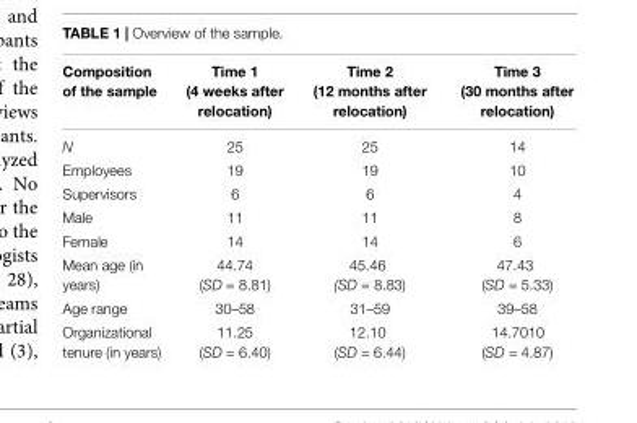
<table><thead><tr><td>Composition of the sample</td><td>Time 1 (4 weeks after relocation)</td><td>Time 2 (12 months after relocation)</td><td>Time 3 (30 months after relocation)</td></tr></thead><tbody><tr><td>N</td><td>25</td><td>25</td><td>14</td></tr><tr><td>Employees</td><td>19</td><td>19</td><td>10</td></tr><tr><td>Supervisors</td><td>6</td><td>6</td><td>4</td></tr><tr><td>Male</td><td>11</td><td>11</td><td>8</td></tr><tr><td>Female</td><td>14</td><td>14</td><td>6</td></tr><tr><td>Mean age (in years)</td><td>44.74 (SD = 8.81)</td><td>45.46 (SD = 8.83)</td><td>47.43 (SD = 5.33)</td></tr><tr><td>Age range</td><td>30–58</td><td>31–59</td><td>39–58</td></tr><tr><td>Organizational tenure (in years)</td><td>11.25 (SD = 6.40)</td><td>12.10 (SD = 6.44)</td><td>14.7010 (SD = 4.87)</td></tr></tbody></table>